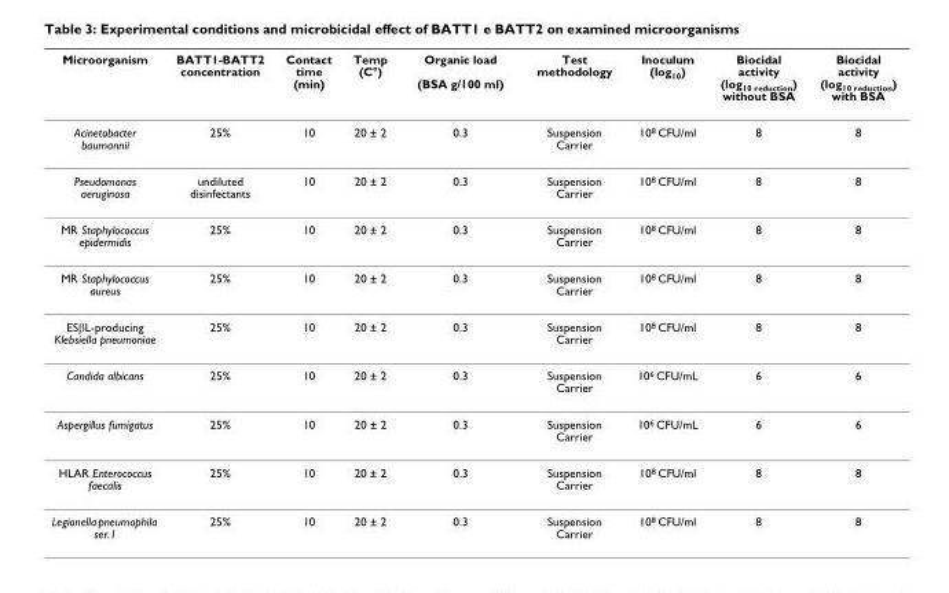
<table><thead><tr><td>Microorganism</td><td>BATT1-BATT2 concentration</td><td>Contact time (min)</td><td>Temp (C°)</td><td>Organic load (BSA g/100 ml)</td><td>Test methodology</td><td>Inoculum (log<sub>10</sub>)</td><td>Biocidal activity (log<sub>10 reduction</sub>) without BSA</td><td>Biocidal activity (log<sub>10 reduction</sub>) with BSA</td></tr></thead><tbody><tr><td>Acinetobacter baumannii</td><td>25%</td><td>10</td><td>20 ± 2</td><td>0.3</td><td>Suspension Carrier</td><td>10<sup>8</sup> CFU/ml</td><td>8</td><td>8</td></tr><tr><td>Pseudomonas aeruginosa</td><td>undiluted disinfectants</td><td>10</td><td>20 ± 2</td><td>0.3</td><td>Suspension Carrier</td><td>10<sup>8</sup> CFU/ml</td><td>8</td><td>8</td></tr><tr><td>MR Staphylococcus epidermidis</td><td>25%</td><td>10</td><td>20 ± 2</td><td>0.3</td><td>Suspension Carrier</td><td>10<sup>8</sup> CFU/ml</td><td>8</td><td>8</td></tr><tr><td>MR Staphylococcus aureus</td><td>25%</td><td>10</td><td>20 ± 2</td><td>0.3</td><td>Suspension Carrier</td><td>10<sup>8</sup> CFU/ml</td><td>8</td><td>8</td></tr><tr><td>ESβL-producing Klebsiella pneumoniae</td><td>25%</td><td>10</td><td>20 ± 2</td><td>0.3</td><td>Suspension Carrier</td><td>10<sup>8</sup> CFU/ml</td><td>8</td><td>8</td></tr><tr><td>Candida albicans</td><td>25%</td><td>10</td><td>20 ± 2</td><td>0.3</td><td>Suspension Carrier</td><td>10<sup>6</sup> CFU/mL</td><td>6</td><td>6</td></tr><tr><td>Aspergillus fumigatus</td><td>25%</td><td>10</td><td>20 ± 2</td><td>0.3</td><td>Suspension Carrier</td><td>10<sup>6</sup> CFU/mL</td><td>6</td><td>6</td></tr><tr><td>HLAR Enterococcus faecalis</td><td>25%</td><td>10</td><td>20 ± 2</td><td>0.3</td><td>Suspension Carrier</td><td>10<sup>8</sup> CFU/ml</td><td>8</td><td>8</td></tr><tr><td>Legionella pneumophila ser.1</td><td>25%</td><td>10</td><td>20 ± 2</td><td>0.3</td><td>Suspension Carrier</td><td>10<sup>8</sup> CFU/ml</td><td>8</td><td>8</td></tr></tbody></table>